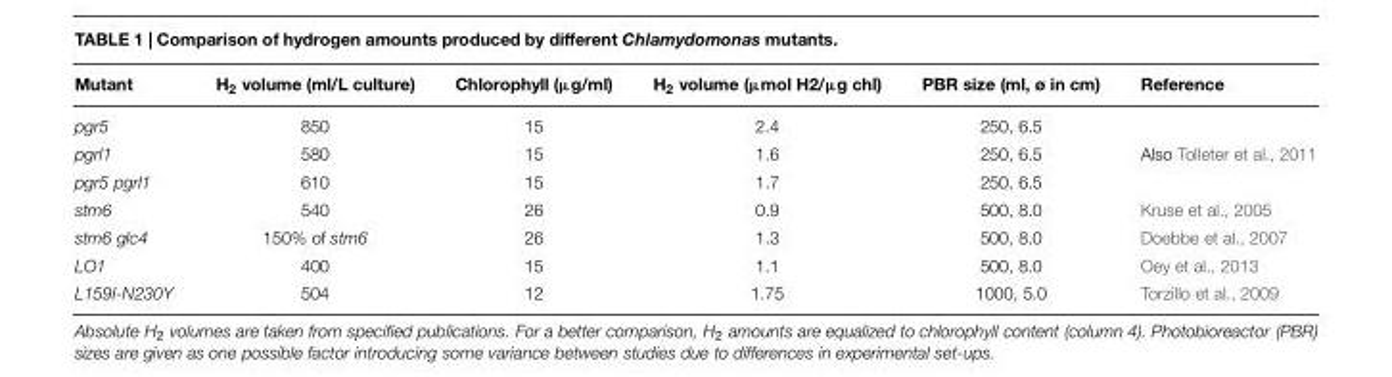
<table><thead><tr><td>Mutant</td><td>H<sub>2</sub> volume (ml/L culture)</td><td>Chlorophyll (µg/ml)</td><td>H<sub>2</sub> volume (µmol H2/µg chl)</td><td>PBR size (ml, ø in cm)</td><td>Reference</td></tr></thead><tbody><tr><td>pgr5</td><td>850</td><td>15</td><td>2.4</td><td>250, 6.5</td><td></td></tr><tr><td>pgrl1</td><td>580</td><td>15</td><td>1.6</td><td>250, 6.5</td><td>Also Tolleter et al., 2011</td></tr><tr><td>pgr5 pgrl1</td><td>610</td><td>15</td><td>1.7</td><td>250, 6.5</td><td></td></tr><tr><td>stm6</td><td>540</td><td>26</td><td>0.9</td><td>500, 8.0</td><td>Kruse et al., 2005</td></tr><tr><td>stm6 glc4</td><td>150% of stm6</td><td>26</td><td>1.3</td><td>500, 8.0</td><td>Doebbe et al., 2007</td></tr><tr><td>LO1</td><td>400</td><td>15</td><td>1.1</td><td>500, 8.0</td><td>Oey et al., 2013</td></tr><tr><td>L159I-N230Y</td><td>504</td><td>12</td><td>1.75</td><td>1000, 5.0</td><td>Torzillo et al., 2009</td></tr></tbody></table>